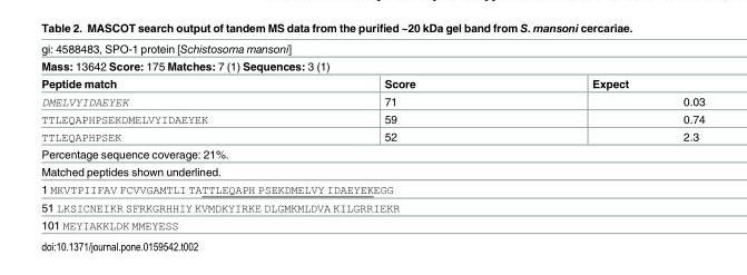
<table><tbody><tr><td colspan="3">gi: 4588483, SPO-1 protein [Schistosoma mansoni]</td></tr><tr><td colspan="3">Mass: 13642 Score: 175 Matches: 7 (1) Sequences: 3 (1)</td></tr><tr><td>Peptide match</td><td>Score</td><td>Expect</td></tr><tr><td>DMELVYIDAEYEK</td><td>71</td><td>0.03</td></tr><tr><td>TTLEQAPHPSEKDMELVYIDAEYEK</td><td>59</td><td>0.74</td></tr><tr><td>TTLEQAPHPSEK</td><td>52</td><td>2.3</td></tr><tr><td colspan="3">Percentage sequence coverage: 21%.</td></tr><tr><td colspan="3">Matched peptides shown underlined.</td></tr><tr><td colspan="3">1 MKVTPIIFAV FCVVGAMTLI TATTLEQAPH PSEKDMELVY IDAEYEKEGG</td></tr><tr><td colspan="3">51 LKSICNEIKR SFRKGRHHIY KVMDKYIRKE DLGMKMLDVA KILGRRIEKR</td></tr><tr><td colspan="3">101 MEYIAKKLDK MMEYESS</td></tr></tbody></table>